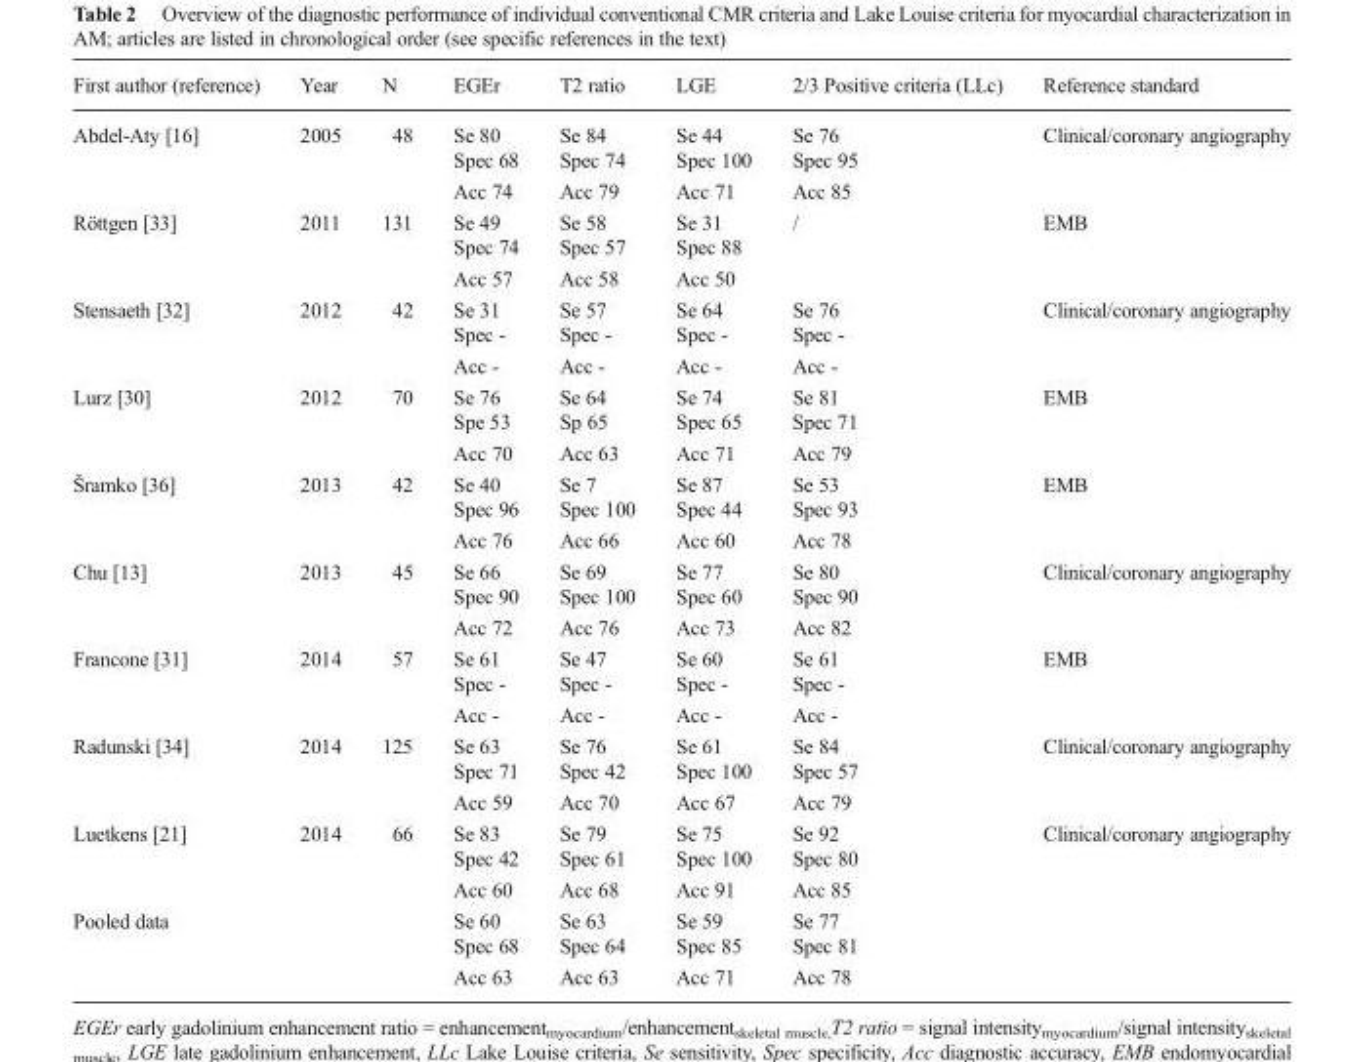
<table><thead><tr><td>First author (reference)</td><td>Year</td><td>N</td><td>EGEr</td><td>T2 ratio</td><td>LGE</td><td>2/3 Positive criteria (LLc)</td><td>Reference standard</td></tr></thead><tbody><tr><td rowspan="3">Abdel-Aty [16]</td><td rowspan="3">2005</td><td rowspan="3">48</td><td>Se 80</td><td>Se 84</td><td>Se 44</td><td>Se 76</td><td rowspan="3">Clinical/coronary angiography</td></tr><tr><td>Spec 68</td><td>Spec 74</td><td>Spec 100</td><td>Spec 95</td></tr><tr><td>Acc 74</td><td>Acc 79</td><td>Acc 71</td><td>Acc 85</td></tr><tr><td rowspan="3">Röttgen [33]</td><td rowspan="3">2011</td><td rowspan="3">131</td><td>Se 49</td><td>Se 58</td><td>Se 31</td><td rowspan="3">/</td><td rowspan="3">EMB</td></tr><tr><td>Spec 74</td><td>Spec 57</td><td>Spec 88</td></tr><tr><td>Acc 57</td><td>Acc 58</td><td>Acc 50</td></tr><tr><td rowspan="3">Stensaeth [32]</td><td rowspan="3">2012</td><td rowspan="3">42</td><td>Se 31</td><td>Se 57</td><td>Se 64</td><td>Se 76</td><td rowspan="3">Clinical/coronary angiography</td></tr><tr><td>Spec -</td><td>Spec -</td><td>Spec -</td><td>Spec -</td></tr><tr><td>Acc -</td><td>Acc -</td><td>Acc -</td><td>Acc -</td></tr><tr><td rowspan="3">Lurz [30]</td><td rowspan="3">2012</td><td rowspan="3">70</td><td>Se 76</td><td>Se 64</td><td>Se 74</td><td>Se 81</td><td rowspan="3">EMB</td></tr><tr><td>Spe 53</td><td>Sp 65</td><td>Spec 65</td><td>Spec 71</td></tr><tr><td>Acc 70</td><td>Acc 63</td><td>Acc 71</td><td>Acc 79</td></tr><tr><td rowspan="3">Šramko [36]</td><td rowspan="3">2013</td><td rowspan="3">42</td><td>Se 40</td><td>Se 7</td><td>Se 87</td><td>Se 53</td><td rowspan="3">EMB</td></tr><tr><td>Spec 96</td><td>Spec 100</td><td>Spec 44</td><td>Spec 93</td></tr><tr><td>Acc 76</td><td>Acc 66</td><td>Acc 60</td><td>Acc 78</td></tr><tr><td rowspan="3">Chu [13]</td><td rowspan="3">2013</td><td rowspan="3">45</td><td>Se 66</td><td>Se 69</td><td>Se 77</td><td>Se 80</td><td rowspan="3">Clinical/coronary angiography</td></tr><tr><td>Spec 90</td><td>Spec 100</td><td>Spec 60</td><td>Spec 90</td></tr><tr><td>Acc 72</td><td>Acc 76</td><td>Acc 73</td><td>Acc 82</td></tr><tr><td rowspan="3">Francone [31]</td><td rowspan="3">2014</td><td rowspan="3">57</td><td>Se 61</td><td>Se 47</td><td>Se 60</td><td>Se 61</td><td rowspan="3">EMB</td></tr><tr><td>Spec -</td><td>Spec -</td><td>Spec -</td><td>Spec -</td></tr><tr><td>Acc -</td><td>Acc -</td><td>Acc -</td><td>Acc -</td></tr><tr><td rowspan="3">Radunski [34]</td><td rowspan="3">2014</td><td rowspan="3">125</td><td>Se 63</td><td>Se 76</td><td>Se 61</td><td>Se 84</td><td rowspan="3">Clinical/coronary angiography</td></tr><tr><td>Spec 71</td><td>Spec 42</td><td>Spec 100</td><td>Spec 57</td></tr><tr><td>Acc 59</td><td>Acc 70</td><td>Acc 67</td><td>Acc 79</td></tr><tr><td rowspan="3">Luetkens [21]</td><td rowspan="3">2014</td><td rowspan="3">66</td><td>Se 83</td><td>Se 79</td><td>Se 75</td><td>Se 92</td><td rowspan="3">Clinical/coronary angiography</td></tr><tr><td>Spec 42</td><td>Spec 61</td><td>Spec 100</td><td>Spec 80</td></tr><tr><td>Acc 60</td><td>Acc 68</td><td>Acc 91</td><td>Acc 85</td></tr><tr><td rowspan="3">Pooled data</td><td rowspan="3"></td><td rowspan="3"></td><td>Se 60</td><td>Se 63</td><td>Se 59</td><td>Se 77</td><td rowspan="3"></td></tr><tr><td>Spec 68</td><td>Spec 64</td><td>Spec 85</td><td>Spec 81</td></tr><tr><td>Acc 63</td><td>Acc 63</td><td>Acc 71</td><td>Acc 78</td></tr></tbody></table>